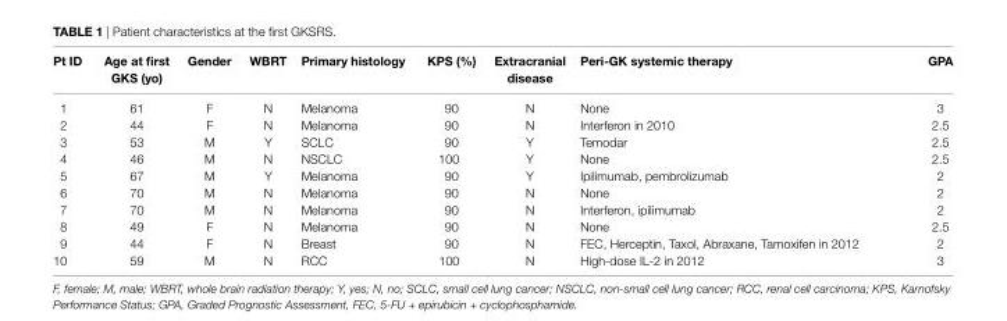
<table><thead><tr><td>Pt iD</td><td>age at first gKs (yo)</td><td>gender</td><td>WBrT</td><td>Primary histology</td><td>KPs (%)</td><td>extracranial disease</td><td>Peri-gK systemic therapy</td><td>gPa</td></tr></thead><tbody><tr><td>1</td><td>61</td><td>F</td><td>N</td><td>Melanoma</td><td>90</td><td>N</td><td>None</td><td>3</td></tr><tr><td>2</td><td>44</td><td>F</td><td>N</td><td>Melanoma</td><td>90</td><td>N</td><td>Interferon in 2010</td><td>2.5</td></tr><tr><td>3</td><td>53</td><td>M</td><td>Y</td><td>SCLC</td><td>90</td><td>Y</td><td>Temodar</td><td>2.5</td></tr><tr><td>4</td><td>46</td><td>M</td><td>N</td><td>NSCLC</td><td>100</td><td>Y</td><td>None</td><td>2.5</td></tr><tr><td>5</td><td>67</td><td>M</td><td>Y</td><td>Melanoma</td><td>90</td><td>Y</td><td>Ipilimumab, pembrolizumab</td><td>2</td></tr><tr><td>6</td><td>70</td><td>M</td><td>N</td><td>Melanoma</td><td>90</td><td>N</td><td>None</td><td>2</td></tr><tr><td>7</td><td>70</td><td>M</td><td>N</td><td>Melanoma</td><td>90</td><td>N</td><td>Interferon, ipilimumab</td><td>2</td></tr><tr><td>8</td><td>49</td><td>F</td><td>N</td><td>Melanoma</td><td>90</td><td>N</td><td>None</td><td>2.5</td></tr><tr><td>9</td><td>44</td><td>F</td><td>N</td><td>Breast</td><td>90</td><td>N</td><td>FEC, Herceptin, Taxol, Abraxane, Tamoxifen in 2012</td><td>2</td></tr><tr><td>10</td><td>59</td><td>M</td><td>N</td><td>RCC</td><td>100</td><td>N</td><td>High-dose IL-2 in 2012</td><td>3</td></tr></tbody></table>